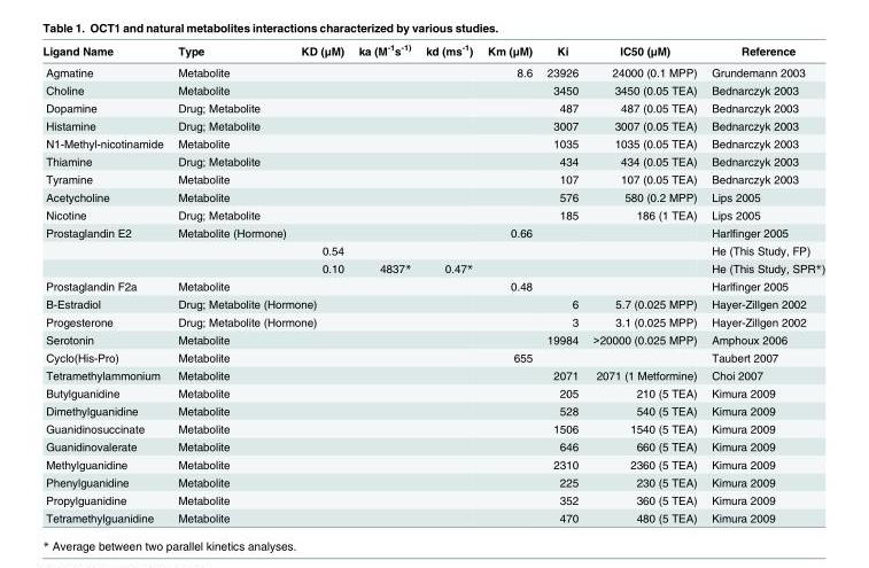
<table><thead><tr><td>Ligand Name</td><td>Type</td><td>KD (μM)</td><td>ka (M<sup>-1</sup>s<sup>-1)</sup></td><td>kd (ms<sup>-1</sup>)</td><td>Km (μM)</td><td>Ki</td><td>IC50 (μM)</td><td>Reference</td></tr></thead><tbody><tr><td>Agmatine</td><td>Metabolite</td><td></td><td></td><td></td><td>8.6</td><td>23926</td><td>24000 (0.1 MPP)</td><td>Grundemann 2003</td></tr><tr><td>Choline</td><td>Metabolite</td><td></td><td></td><td></td><td></td><td>3450</td><td>3450 (0.05 TEA)</td><td>Bednarczyk 2003</td></tr><tr><td>Dopamine</td><td>Drug; Metabolite</td><td></td><td></td><td></td><td></td><td>487</td><td>487 (0.05 TEA)</td><td>Bednarczyk 2003</td></tr><tr><td>Histamine</td><td>Drug; Metabolite</td><td></td><td></td><td></td><td></td><td>3007</td><td>3007 (0.05 TEA)</td><td>Bednarczyk 2003</td></tr><tr><td>N1-Methyl-nicotinamide</td><td>Metabolite</td><td></td><td></td><td></td><td></td><td>1035</td><td>1035 (0.05 TEA)</td><td>Bednarczyk 2003</td></tr><tr><td>Thiamine</td><td>Drug; Metabolite</td><td></td><td></td><td></td><td></td><td>434</td><td>434 (0.05 TEA)</td><td>Bednarczyk 2003</td></tr><tr><td>Tyramine</td><td>Metabolite</td><td></td><td></td><td></td><td></td><td>107</td><td>107 (0.05 TEA)</td><td>Bednarczyk 2003</td></tr><tr><td>Acetycholine</td><td>Metabolite</td><td></td><td></td><td></td><td></td><td>576</td><td>580 (0.2 MPP)</td><td>Lips 2005</td></tr><tr><td>Nicotine</td><td>Drug; Metabolite</td><td></td><td></td><td></td><td></td><td>185</td><td>186 (1 TEA)</td><td>Lips 2005</td></tr><tr><td rowspan="3">Prostaglandin E2</td><td>Metabolite (Hormone)</td><td></td><td></td><td></td><td>0.66</td><td></td><td></td><td>Harlfinger 2005</td></tr><tr><td></td><td>0.54</td><td></td><td></td><td></td><td></td><td></td><td>He (This Study, FP)</td></tr><tr><td></td><td>0.10</td><td>4837*</td><td>0.47*</td><td></td><td></td><td></td><td>He (This Study, SPR*)</td></tr><tr><td>Prostaglandin F2a</td><td>Metabolite</td><td></td><td></td><td></td><td>0.48</td><td></td><td></td><td>Harlfinger 2005</td></tr><tr><td>B-Estradiol</td><td colspan="2">Drug; Metabolite (Hormone)</td><td></td><td></td><td></td><td>6</td><td>5.7 (0.025 MPP)</td><td>Hayer-Zillgen 2002</td></tr><tr><td>Progesterone</td><td colspan="2">Drug; Metabolite (Hormone)</td><td></td><td></td><td></td><td>3</td><td>3.1 (0.025 MPP)</td><td>Hayer-Zillgen 2002</td></tr><tr><td>Serotonin</td><td>Metabolite</td><td></td><td></td><td></td><td></td><td>19984</td><td>&gt;20000 (0.025 MPP)</td><td>Amphoux 2006</td></tr><tr><td>Cyclo(His-Pro)</td><td>Metabolite</td><td></td><td></td><td></td><td>655</td><td></td><td></td><td>Taubert 2007</td></tr><tr><td>Tetramethylammonium</td><td>Metabolite</td><td></td><td></td><td></td><td></td><td>2071</td><td>2071 (1 Metformine)</td><td>Choi 2007</td></tr><tr><td>Butylguanidine</td><td>Metabolite</td><td></td><td></td><td></td><td></td><td>205</td><td>210 (5 TEA)</td><td>Kimura 2009</td></tr><tr><td>Dimethylguanidine</td><td>Metabolite</td><td></td><td></td><td></td><td></td><td>528</td><td>540 (5 TEA)</td><td>Kimura 2009</td></tr><tr><td>Guanidinosuccinate</td><td>Metabolite</td><td></td><td></td><td></td><td></td><td>1506</td><td>1540 (5 TEA)</td><td>Kimura 2009</td></tr><tr><td>Guanidinovalerate</td><td>Metabolite</td><td></td><td></td><td></td><td></td><td>646</td><td>660 (5 TEA)</td><td>Kimura 2009</td></tr><tr><td>Methylguanidine</td><td>Metabolite</td><td></td><td></td><td></td><td></td><td>2310</td><td>2360 (5 TEA)</td><td>Kimura 2009</td></tr><tr><td>Phenylguanidine</td><td>Metabolite</td><td></td><td></td><td></td><td></td><td>225</td><td>230 (5 TEA)</td><td>Kimura 2009</td></tr><tr><td>Propylguanidine</td><td>Metabolite</td><td></td><td></td><td></td><td></td><td>352</td><td>360 (5 TEA)</td><td>Kimura 2009</td></tr><tr><td>Tetramethylguanidine</td><td>Metabolite</td><td></td><td></td><td></td><td></td><td>470</td><td>480 (5 TEA)</td><td>Kimura 2009</td></tr></tbody></table>